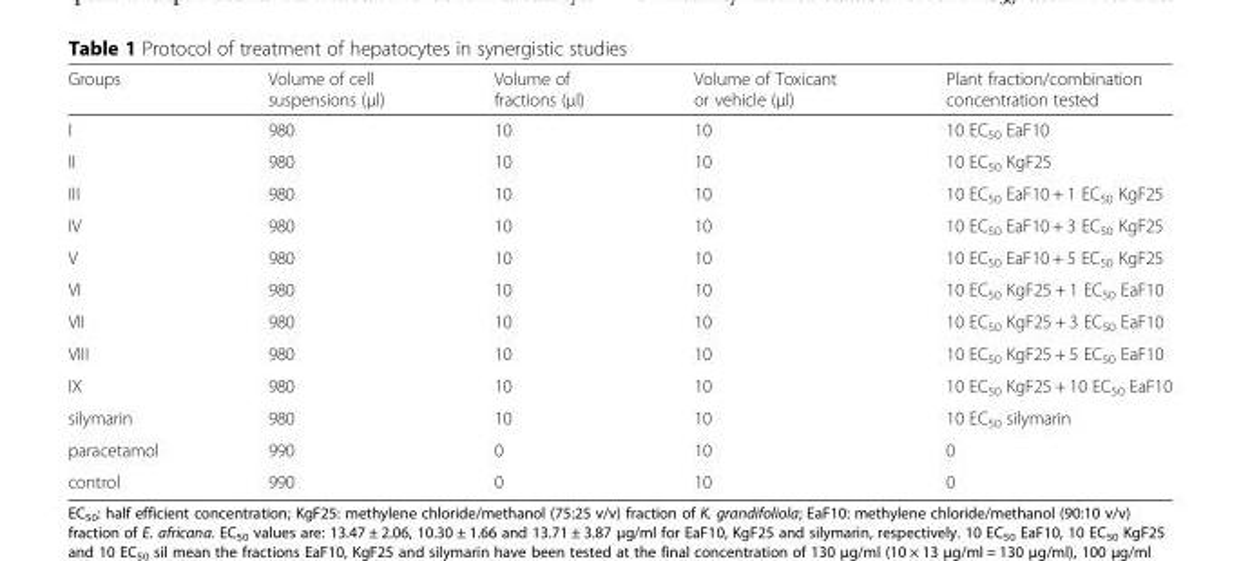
<table><thead><tr><td>Groups</td><td>Volume of cell suspensions (μl)</td><td>Volume of fractions (μl)</td><td>Volume of Toxicant or vehicle (μl)</td><td>Plant fraction/combination concentration tested</td></tr></thead><tbody><tr><td>I</td><td>980</td><td>10</td><td>10</td><td>10 EC<sub>50</sub> EaF10</td></tr><tr><td>II</td><td>980</td><td>10</td><td>10</td><td>10 EC<sub>50</sub> KgF25</td></tr><tr><td>III</td><td>980</td><td>10</td><td>10</td><td>10 EC<sub>50</sub> EaF10 + 1 EC<sub>50</sub> KgF25</td></tr><tr><td>IV</td><td>980</td><td>10</td><td>10</td><td>10 EC<sub>50</sub> EaF10 + 3 EC<sub>50</sub> KgF25</td></tr><tr><td>V</td><td>980</td><td>10</td><td>10</td><td>10 EC<sub>50</sub> EaF10 + 5 EC<sub>50</sub> KgF25</td></tr><tr><td>VI</td><td>980</td><td>10</td><td>10</td><td>10 EC<sub>50</sub> KgF25 + 1 EC<sub>50</sub> EaF10</td></tr><tr><td>VII</td><td>980</td><td>10</td><td>10</td><td>10 EC<sub>50</sub> KgF25 + 3 EC<sub>50</sub> EaF10</td></tr><tr><td>VIII</td><td>980</td><td>10</td><td>10</td><td>10 EC<sub>50</sub> KgF25 + 5 EC<sub>50</sub> EaF10</td></tr><tr><td>IX</td><td>980</td><td>10</td><td>10</td><td>10 EC<sub>50</sub> KgF25 + 10 EC<sub>50</sub> EaF10</td></tr><tr><td>silymarin</td><td>980</td><td>10</td><td>10</td><td>10 EC<sub>50</sub> silymarin</td></tr><tr><td>paracetamol</td><td>990</td><td>0</td><td>10</td><td>0</td></tr><tr><td>control</td><td>990</td><td>0</td><td>10</td><td>0</td></tr></tbody></table>